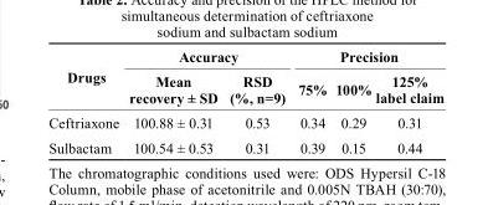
<table><thead><tr><td rowspan="2">Drugs</td><td colspan="2">Accuracy</td><td colspan="3">Precision</td></tr><tr><td>Mean recovery ± sD</td><td>rsD (%, n=9)</td><td>75%</td><td>100%</td><td>125% label claim</td></tr></thead><tbody><tr><td>Ceftriaxone</td><td>100.88 ± 0.31</td><td>0.53</td><td>0.34</td><td>0.29</td><td>0.31</td></tr><tr><td>Sulbactam</td><td>100.54 ± 0.53</td><td>0.31</td><td>0.39</td><td>0.15</td><td>0.44</td></tr></tbody></table>